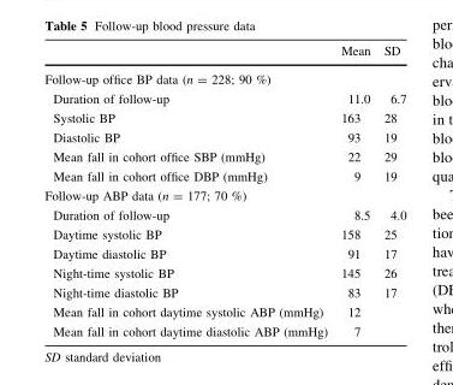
<table><thead><tr><td></td><td>Mean</td><td>SD</td></tr></thead><tbody><tr><td colspan="3">Follow-up office BP data (n = 228; 90 %)</td></tr><tr><td>Duration of follow-up</td><td>11.0</td><td>6.7</td></tr><tr><td>Systolic BP</td><td>163</td><td>28</td></tr><tr><td>Diastolic BP</td><td>93</td><td>19</td></tr><tr><td>Mean fall in cohort office SBP (mmHg)</td><td>22</td><td>29</td></tr><tr><td>Mean fall in cohort office DBP (mmHg)</td><td>9</td><td>19</td></tr><tr><td colspan="3">Follow-up ABP data (n = 177; 70 %)</td></tr><tr><td>Duration of follow-up</td><td>8.5</td><td>4.0</td></tr><tr><td>Daytime systolic BP</td><td>158</td><td>25</td></tr><tr><td>Daytime diastolic BP</td><td>91</td><td>17</td></tr><tr><td>Night-time systolic BP</td><td>145</td><td>26</td></tr><tr><td>Night-time diastolic BP</td><td>83</td><td>17</td></tr><tr><td>Mean fall in cohort daytime systolic ABP (mmHg)</td><td>12</td><td></td></tr><tr><td>Mean fall in cohort daytime diastolic ABP (mmHg)</td><td>7</td><td></td></tr></tbody></table>